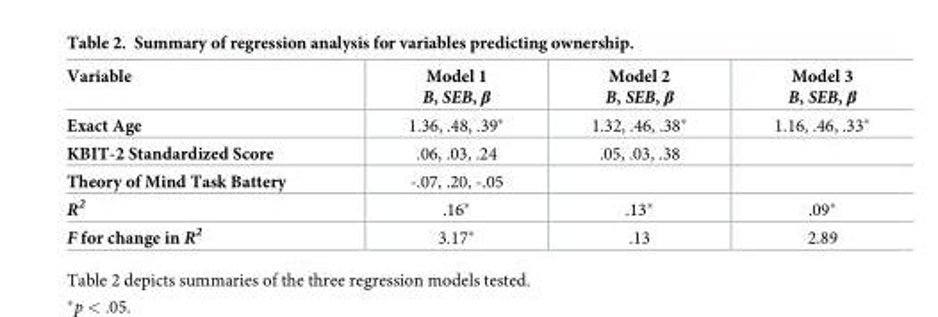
<table><thead><tr><td>Variable</td><td>Model 1 B, SEB, β</td><td>Model 2 B, SEB, β</td><td>Model 3 B, SEB, β</td></tr></thead><tbody><tr><td>Exact Age</td><td>1.36, .48, .39*</td><td>1.32, .46, .38*</td><td>1.16, .46, .33*</td></tr><tr><td>KBIT-2 Standardized Score</td><td>.06, .03, .24</td><td>.05, .03, .38</td><td></td></tr><tr><td>Theory of Mind Task Battery</td><td>-.07, .20, -.05</td><td></td><td></td></tr><tr><td>R<sup>2</sup></td><td>.16*</td><td>.13*</td><td>.09*</td></tr><tr><td>F for change in R<sup>2</sup></td><td>3.17*</td><td>.13</td><td>2.89</td></tr></tbody></table>